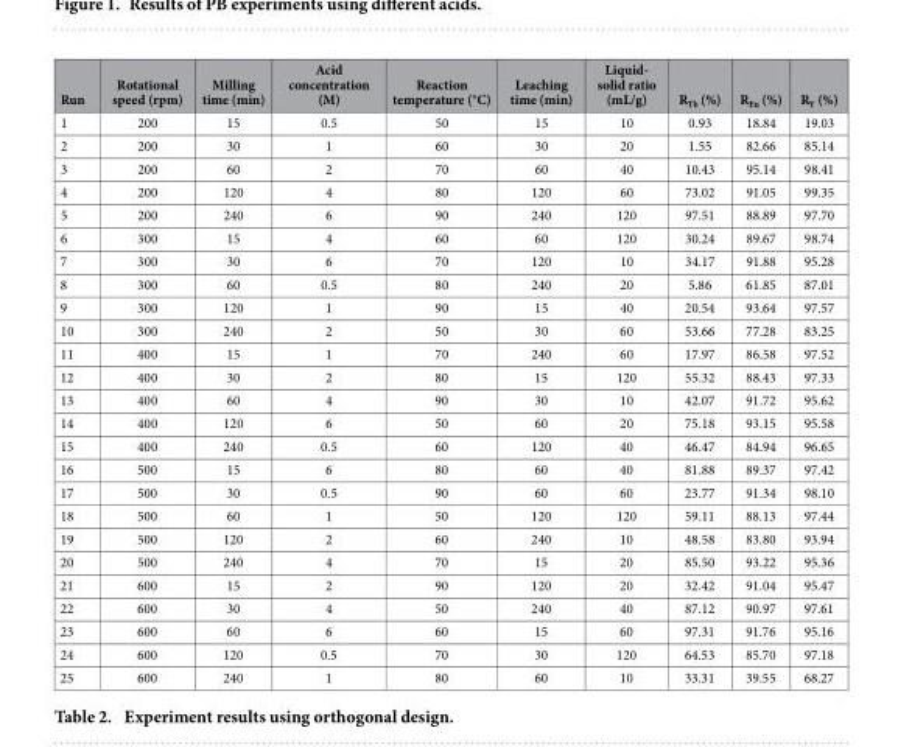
<table><thead><tr><td>Run</td><td>Rotational speed (rpm)</td><td>Milling time (min)</td><td>Acid concentration (M)</td><td>Reaction temperature (°C)</td><td>Leaching time (min)</td><td>Liquid- solid ratio (mL/g)</td><td>R<sub>Tb</sub> (%)</td><td>R<sub>Eu</sub> (%)</td><td>R<sub>Y</sub> (%)</td></tr></thead><tbody><tr><td>1</td><td>200</td><td>15</td><td>0.5</td><td>50</td><td>15</td><td>10</td><td>0.93</td><td>18.84</td><td>19.03</td></tr><tr><td>2</td><td>200</td><td>30</td><td>1</td><td>60</td><td>30</td><td>20</td><td>1.55</td><td>82.66</td><td>85.14</td></tr><tr><td>3</td><td>200</td><td>60</td><td>2</td><td>70</td><td>60</td><td>40</td><td>10.43</td><td>95.14</td><td>98.41</td></tr><tr><td>4</td><td>200</td><td>120</td><td>4</td><td>80</td><td>120</td><td>60</td><td>73.02</td><td>91.05</td><td>99.35</td></tr><tr><td>5</td><td>200</td><td>240</td><td>6</td><td>90</td><td>240</td><td>120</td><td>97.51</td><td>88.89</td><td>97.70</td></tr><tr><td>6</td><td>300</td><td>15</td><td>4</td><td>60</td><td>60</td><td>120</td><td>30.24</td><td>89.67</td><td>98.74</td></tr><tr><td>7</td><td>300</td><td>30</td><td>6</td><td>70</td><td>120</td><td>10</td><td>34.17</td><td>91.88</td><td>95.28</td></tr><tr><td>8</td><td>300</td><td>60</td><td>0.5</td><td>80</td><td>240</td><td>20</td><td>5.86</td><td>61.85</td><td>87.01</td></tr><tr><td>9</td><td>300</td><td>120</td><td>1</td><td>90</td><td>15</td><td>40</td><td>20.54</td><td>93.64</td><td>97.57</td></tr><tr><td>10</td><td>300</td><td>240</td><td>2</td><td>50</td><td>30</td><td>60</td><td>53.66</td><td>77.28</td><td>83.25</td></tr><tr><td>11</td><td>400</td><td>15</td><td>1</td><td>70</td><td>240</td><td>60</td><td>17.97</td><td>86.58</td><td>97.52</td></tr><tr><td>12</td><td>400</td><td>30</td><td>2</td><td>80</td><td>15</td><td>120</td><td>55.32</td><td>88.43</td><td>97.33</td></tr><tr><td>13</td><td>400</td><td>60</td><td>4</td><td>90</td><td>30</td><td>10</td><td>42.07</td><td>91.72</td><td>95.62</td></tr><tr><td>14</td><td>400</td><td>120</td><td>6</td><td>50</td><td>60</td><td>20</td><td>75.18</td><td>93.15</td><td>95.58</td></tr><tr><td>15</td><td>400</td><td>240</td><td>0.5</td><td>60</td><td>120</td><td>40</td><td>46.47</td><td>84.94</td><td>96.65</td></tr><tr><td>16</td><td>500</td><td>15</td><td>6</td><td>80</td><td>60</td><td>40</td><td>81.88</td><td>89.37</td><td>97.42</td></tr><tr><td>17</td><td>500</td><td>30</td><td>0.5</td><td>90</td><td>60</td><td>60</td><td>23.77</td><td>91.34</td><td>98.10</td></tr><tr><td>18</td><td>500</td><td>60</td><td>1</td><td>50</td><td>120</td><td>120</td><td>59.11</td><td>88.13</td><td>97.44</td></tr><tr><td>19</td><td>500</td><td>120</td><td>2</td><td>60</td><td>240</td><td>10</td><td>48.58</td><td>83.80</td><td>93.94</td></tr><tr><td>20</td><td>500</td><td>240</td><td>4</td><td>70</td><td>15</td><td>20</td><td>85.50</td><td>93.22</td><td>95.36</td></tr><tr><td>21</td><td>600</td><td>15</td><td>2</td><td>90</td><td>120</td><td>20</td><td>32.42</td><td>91.04</td><td>95.47</td></tr><tr><td>22</td><td>600</td><td>30</td><td>4</td><td>50</td><td>240</td><td>40</td><td>87.12</td><td>90.97</td><td>97.61</td></tr><tr><td>23</td><td>600</td><td>60</td><td>6</td><td>60</td><td>15</td><td>60</td><td>97.31</td><td>91.76</td><td>95.16</td></tr><tr><td>24</td><td>600</td><td>120</td><td>0.5</td><td>70</td><td>30</td><td>120</td><td>64.53</td><td>85.70</td><td>97.18</td></tr><tr><td>25</td><td>600</td><td>240</td><td>1</td><td>80</td><td>60</td><td>10</td><td>33.31</td><td>39.55</td><td>68.27</td></tr></tbody></table>